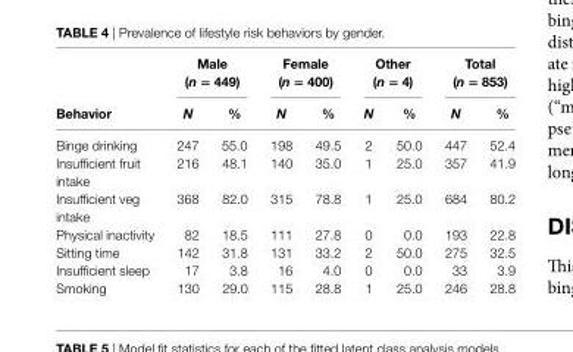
<table><thead><tr><td rowspan="2">Behavior</td><td colspan="2">Male (n = 449)</td><td colspan="2">Female (n = 400)</td><td colspan="2">Other (n = 4)</td><td colspan="2">Total (n = 853)</td></tr><tr><td>N</td><td>%</td><td>N</td><td>%</td><td>N</td><td>%</td><td>N</td><td>%</td></tr></thead><tbody><tr><td>Binge drinking</td><td>247</td><td>55.0</td><td>198</td><td>49.5</td><td>2</td><td>50.0</td><td>447</td><td>52.4</td></tr><tr><td>Insufficient fruit intake</td><td>216</td><td>48.1</td><td>140</td><td>35.0</td><td>1</td><td>25.0</td><td>357</td><td>41.9</td></tr><tr><td>Insufficient veg intake</td><td>368</td><td>82.0</td><td>315</td><td>78.8</td><td>1</td><td>25.0</td><td>684</td><td>80.2</td></tr><tr><td>Physical inactivity</td><td>82</td><td>18.5</td><td>111</td><td>27.8</td><td>0</td><td>0.0</td><td>193</td><td>22.8</td></tr><tr><td>Sitting time</td><td>142</td><td>31.8</td><td>131</td><td>33.2</td><td>2</td><td>50.0</td><td>275</td><td>32.5</td></tr><tr><td>Insufficient sleep</td><td>17</td><td>3.8</td><td>16</td><td>4.0</td><td>0</td><td>0.0</td><td>33</td><td>3.9</td></tr><tr><td>Smoking</td><td>130</td><td>29.0</td><td>115</td><td>28.8</td><td>1</td><td>25.0</td><td>246</td><td>28.8</td></tr></tbody></table>